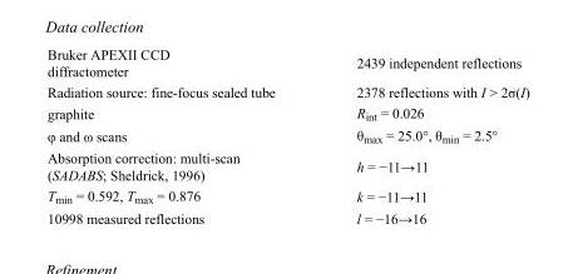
<table><tbody><tr><td>Bruker APEXII CCD diffractometer</td><td>2439 independent reflections</td></tr><tr><td>Radiation source: fine-focus sealed tube</td><td>2378 reflections with I &gt; 2σ(I)</td></tr><tr><td>graphite</td><td>R<sub>int</sub> = 0.026</td></tr><tr><td>φ and ω scans</td><td>θ<sub>max</sub> = 25.0°, θ<sub>min</sub> = 2.5°</td></tr><tr><td>Absorption correction: multi-scan (SADABS; Sheldrick, 1996)</td><td>h = −11→11</td></tr><tr><td>T<sub>min</sub> = 0.592, T<sub>max</sub> = 0.876</td><td>k = −11→11</td></tr><tr><td>10998 measured reflections</td><td>l = −16→16</td></tr></tbody></table>